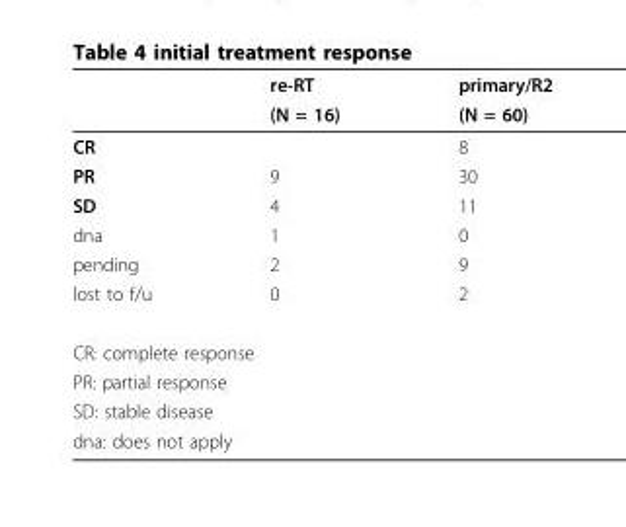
<table><thead><tr><td rowspan="2"></td><td rowspan="2">re-RT (N = 16)</td><td rowspan="2">primary/R2 (N = 60)</td></tr><tr></tr></thead><tbody><tr><td>CR</td><td></td><td>8</td></tr><tr><td>PR</td><td>9</td><td>30</td></tr><tr><td>SD</td><td>4</td><td>11</td></tr><tr><td>dna</td><td>1</td><td>0</td></tr><tr><td>pending</td><td>2</td><td>9</td></tr><tr><td>lost to f/u</td><td>0</td><td>2</td></tr><tr><td colspan="3">CR: complete response</td></tr><tr><td colspan="3">PR: partial response</td></tr><tr><td colspan="3">SD: stable disease</td></tr><tr><td colspan="2">dna: does not apply</td><td></td></tr></tbody></table>